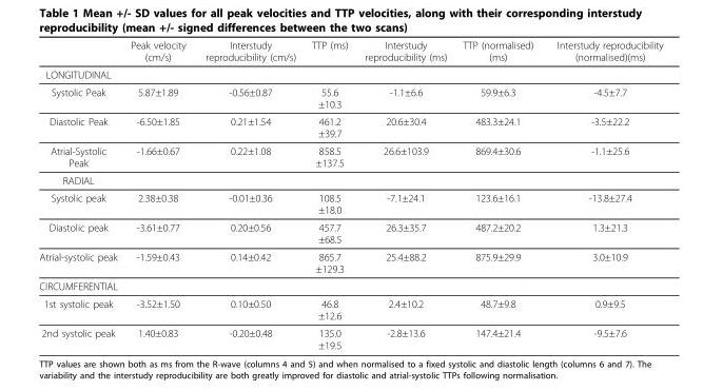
<table><thead><tr><td></td><td>Peak velocity (cm/s)</td><td>Interstudy reproducibility (cm/s)</td><td>TTP (ms)</td><td>Interstudy reproducibility (ms)</td><td>TTP (normalised) (ms)</td><td>Interstudy reproducibility (normalised)(ms)</td></tr></thead><tbody><tr><td colspan="7">LONGITUDINAL</td></tr><tr><td>Systolic Peak</td><td>5.87±1.89</td><td>-0.56±0.87</td><td>55.6 ±10.3</td><td>-1.1±6.6</td><td>59.9±6.3</td><td>-4.5±7.7</td></tr><tr><td>Diastolic Peak</td><td>-6.50±1.85</td><td>0.21±1.54</td><td>461.2 ±39.7</td><td>20.6±30.4</td><td>483.3±24.1</td><td>-3.5±22.2</td></tr><tr><td>Atrial-Systolic Peak</td><td>-1.66±0.67</td><td>0.22±1.08</td><td>858.5 ±137.5</td><td>26.6±103.9</td><td>869.4±30.6</td><td>-1.1±25.6</td></tr><tr><td colspan="7">RADIAL</td></tr><tr><td>Systolic peak</td><td>2.38±0.38</td><td>-0.01±0.36</td><td>108.5 ±18.0</td><td>-7.1±24.1</td><td>123.6±16.1</td><td>-13.8±27.4</td></tr><tr><td>Diastolic peak</td><td>-3.61±0.77</td><td>0.20±0.56</td><td>457.7 ±68.5</td><td>26.3±35.7</td><td>487.2±20.2</td><td>1.3±21.3</td></tr><tr><td>Atrial-systolic peak</td><td>-1.59±0.43</td><td>0.14±0.42</td><td>865.7 ±129.3</td><td>25.4±88.2</td><td>875.9±29.9</td><td>3.0±10.9</td></tr><tr><td colspan="7">CIRCUMFERENTIAL</td></tr><tr><td>1st systolic peak</td><td>-3.52±1.50</td><td>0.10±0.50</td><td>46.8 ±12.6</td><td>2.4±10.2</td><td>48.7±9.8</td><td>0.9±9.5</td></tr><tr><td>2nd systolic peak</td><td>1.40±0.83</td><td>-0.20±0.48</td><td>135.0 ±19.5</td><td>-2.8±13.6</td><td>147.4±21.4</td><td>-9.5±7.6</td></tr></tbody></table>